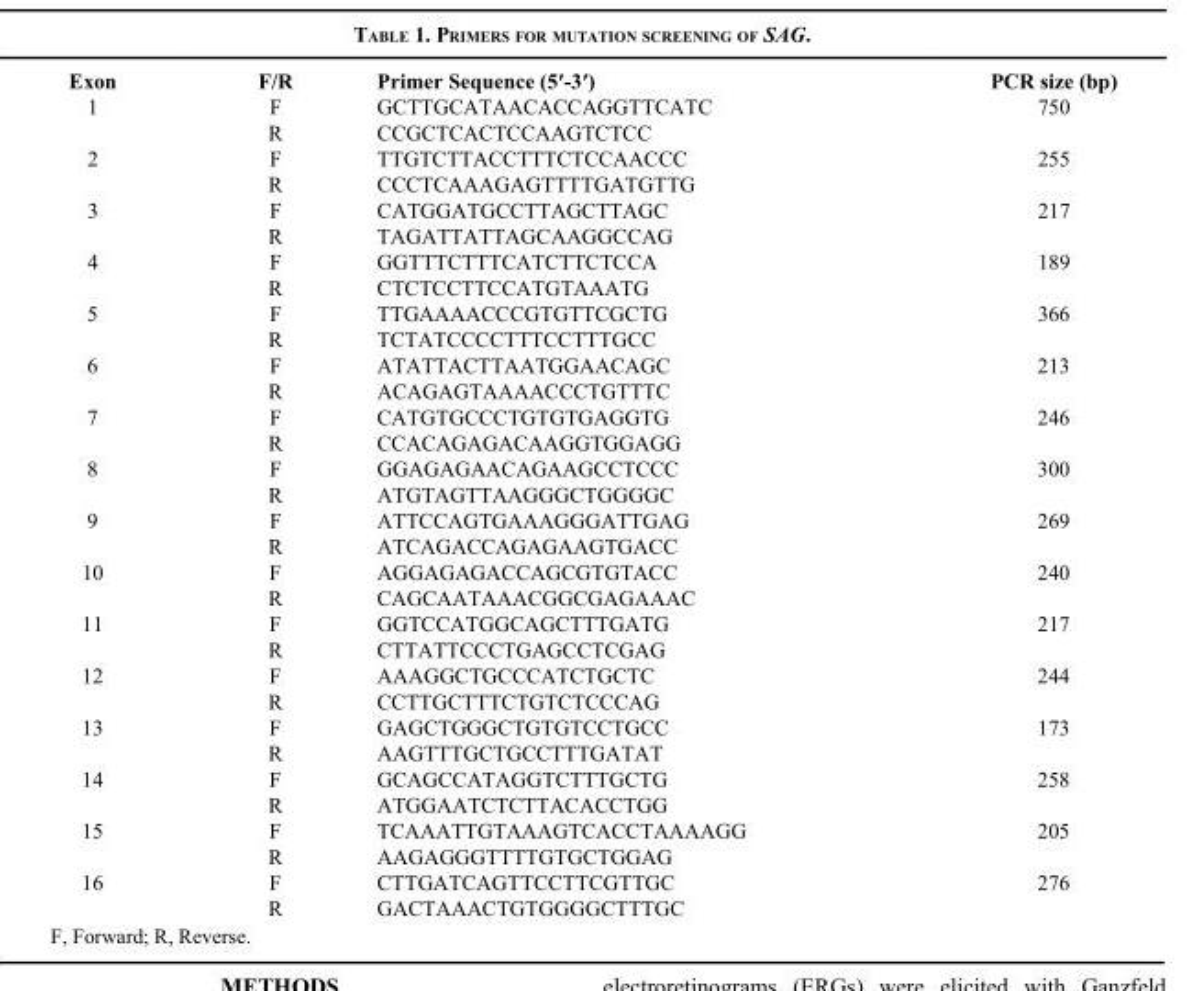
<table><thead><tr><td>Exon</td><td>F/R</td><td>Primer Sequence (5′-3′)</td><td>PCR size (bp)</td></tr></thead><tbody><tr><td rowspan="2">1</td><td>F</td><td>GCTTGCATAACACCAGGTTCATC</td><td>750</td></tr><tr><td>R</td><td>CCGCTCACTCCAAGTCTCC</td><td></td></tr><tr><td rowspan="2">2</td><td>F</td><td>TTGTCTTACCTTTCTCCAACCC</td><td>255</td></tr><tr><td>R</td><td>CCCTCAAAGAGTTTTGATGTTG</td><td></td></tr><tr><td rowspan="2">3</td><td>F</td><td>CATGGATGCCTTAGCTTAGC</td><td>217</td></tr><tr><td>R</td><td>TAGATTATTAGCAAGGCCAG</td><td></td></tr><tr><td rowspan="2">4</td><td>F</td><td>GGTTTCTTTCATCTTCTCCA</td><td>189</td></tr><tr><td>R</td><td>CTCTCCTTCCATGTAAATG</td><td></td></tr><tr><td rowspan="2">5</td><td>F</td><td>TTGAAAACCCGTGTTCGCTG</td><td>366</td></tr><tr><td>R</td><td>TCTATCCCCTTTCCTTTGCC</td><td></td></tr><tr><td rowspan="2">6</td><td>F</td><td>ATATTACTTAATGGAACAGC</td><td>213</td></tr><tr><td>R</td><td>ACAGAGTAAAACCCTGTTTC</td><td></td></tr><tr><td rowspan="2">7</td><td>F</td><td>CATGTGCCCTGTGTGAGGTG</td><td>246</td></tr><tr><td>R</td><td>CCACAGAGACAAGGTGGAGG</td><td></td></tr><tr><td rowspan="2">8</td><td>F</td><td>GGAGAGAACAGAAGCCTCCC</td><td>300</td></tr><tr><td>R</td><td>ATGTAGTTAAGGGCTGGGGC</td><td></td></tr><tr><td rowspan="2">9</td><td>F</td><td>ATTCCAGTGAAAGGGATTGAG</td><td>269</td></tr><tr><td>R</td><td>ATCAGACCAGAGAAGTGACC</td><td></td></tr><tr><td rowspan="2">10</td><td>F</td><td>AGGAGAGACCAGCGTGTACC</td><td>240</td></tr><tr><td>R</td><td>CAGCAATAAACGGCGAGAAAC</td><td></td></tr><tr><td rowspan="2">11</td><td>F</td><td>GGTCCATGGCAGCTTTGATG</td><td>217</td></tr><tr><td>R</td><td>CTTATTCCCTGAGCCTCGAG</td><td></td></tr><tr><td rowspan="2">12</td><td>F</td><td>AAAGGCTGCCCATCTGCTC</td><td>244</td></tr><tr><td>R</td><td>CCTTGCTTTCTGTCTCCCAG</td><td></td></tr><tr><td rowspan="2">13</td><td>F</td><td>GAGCTGGGCTGTGTCCTGCC</td><td>173</td></tr><tr><td>R</td><td>AAGTTTGCTGCCTTTGATAT</td><td></td></tr><tr><td rowspan="2">14</td><td>F</td><td>GCAGCCATAGGTCTTTGCTG</td><td>258</td></tr><tr><td>R</td><td>ATGGAATCTCTTACACCTGG</td><td></td></tr><tr><td rowspan="2">15</td><td>F</td><td>TCAAATTGTAAAGTCACCTAAAAGG</td><td>205</td></tr><tr><td>R</td><td>AAGAGGGTTTTGTGCTGGAG</td><td></td></tr><tr><td rowspan="2">16</td><td>F</td><td>CTTGATCAGTTCCTTCGTTGC</td><td>276</td></tr><tr><td>R</td><td>GACTAAACTGTGGGGCTTTGC</td><td></td></tr></tbody></table>